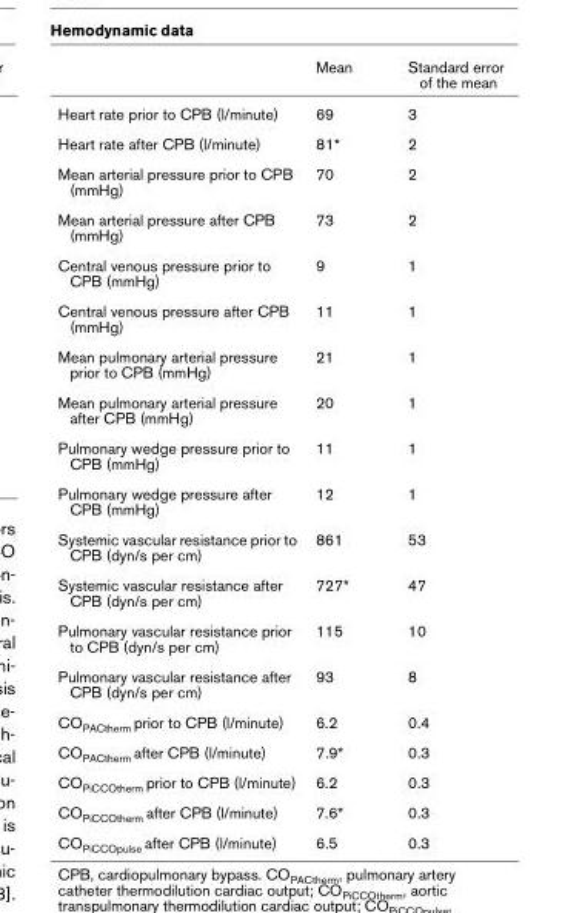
<table><thead><tr><td></td><td>Mean</td><td>Standard error of the mean</td></tr></thead><tbody><tr><td>Heart rate prior to CPB (l/minute)</td><td>69</td><td>3</td></tr><tr><td>Heart rate after CPB (l/minute)</td><td>81*</td><td>2</td></tr><tr><td>Mean arterial pressure prior to CPB (mmHg)</td><td>70</td><td>2</td></tr><tr><td>Mean arterial pressure after CPB (mmHg)</td><td>73</td><td>2</td></tr><tr><td>Central venous pressure prior to CPB (mmHg)</td><td>9</td><td>1</td></tr><tr><td>Central venous pressure after CPB (mmHg)</td><td>11</td><td>1</td></tr><tr><td>Mean pulmonary arterial pressure prior to CPB (mmHg)</td><td>21</td><td>1</td></tr><tr><td>Mean pulmonary arterial pressure after CPB (mmHg)</td><td>20</td><td>1</td></tr><tr><td>Pulmonary wedge pressure prior to CPB (mmHg)</td><td>11</td><td>1</td></tr><tr><td>Pulmonary wedge pressure after CPB (mmHg)</td><td>12</td><td>1</td></tr><tr><td>Systemic vascular resistance prior to CPB (dyn/s per cm)</td><td>861</td><td>53</td></tr><tr><td>Systemic vascular resistance after CPB (dyn/s per cm)</td><td>727*</td><td>47</td></tr><tr><td>Pulmonary vascular resistance prior to CPB (dyn/s per cm)</td><td>115</td><td>10</td></tr><tr><td>Pulmonary vascular resistance after CPB (dyn/s per cm)</td><td>93</td><td>8</td></tr><tr><td>COPACtherm prior to CPB (l/minute)</td><td>6.2</td><td>0.4</td></tr><tr><td>COPACtherm after CPB (l/minute)</td><td>7.9*</td><td>0.3</td></tr><tr><td>COPiCCOtherm prior to CPB (l/minute)</td><td>6.2</td><td>0.3</td></tr><tr><td>COPiCCOtherm after CPB (l/minute)</td><td>7.6*</td><td>0.3</td></tr><tr><td>COPiCCOpulse after CPB (l/minute)</td><td>6.5</td><td>0.3</td></tr></tbody></table>